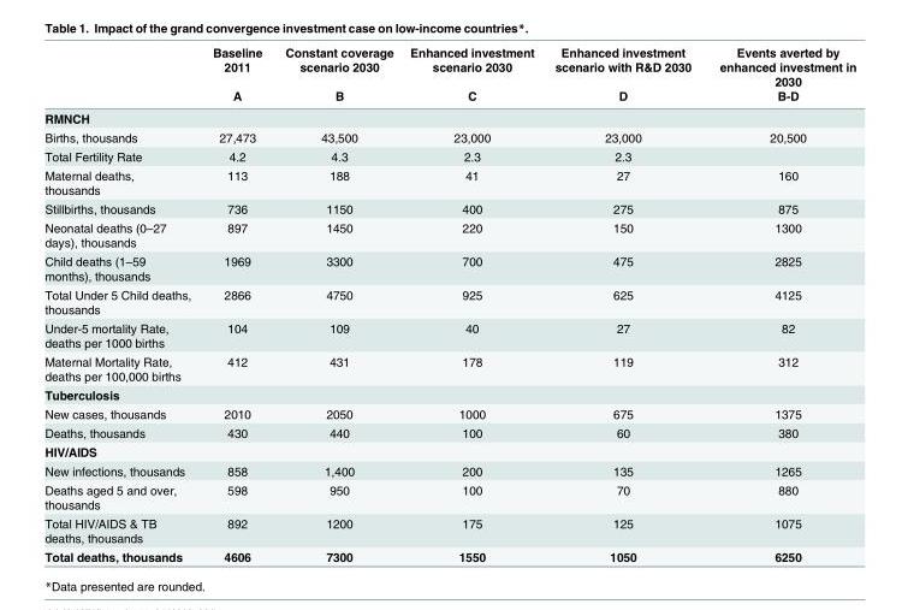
<table><thead><tr><td rowspan="2"></td><td rowspan="2">Baseline 2011 A</td><td rowspan="2">Constant coverage scenario 2030 B</td><td rowspan="2">Enhanced investment scenario 2030 C</td><td rowspan="2">Enhanced investment scenario with R&amp;D 2030 D</td><td rowspan="2">Events averted by enhanced investment in 2030 B-D</td></tr><tr></tr></thead><tbody><tr><td colspan="6">RMNCH</td></tr><tr><td>Births, thousands</td><td>27,473</td><td>43,500</td><td>23,000</td><td>23,000</td><td>20,500</td></tr><tr><td>Total Fertility Rate</td><td>4.2</td><td>4.3</td><td>2.3</td><td>2.3</td><td></td></tr><tr><td>Maternal deaths, thousands</td><td>113</td><td>188</td><td>41</td><td>27</td><td>160</td></tr><tr><td>Stillbirths, thousands</td><td>736</td><td>1150</td><td>400</td><td>275</td><td>875</td></tr><tr><td>Neonatal deaths (0–27 days), thousands</td><td>897</td><td>1450</td><td>220</td><td>150</td><td>1300</td></tr><tr><td>Child deaths (1–59 months), thousands</td><td>1969</td><td>3300</td><td>700</td><td>475</td><td>2825</td></tr><tr><td>Total Under 5 Child deaths, thousands</td><td>2866</td><td>4750</td><td>925</td><td>625</td><td>4125</td></tr><tr><td>Under-5 mortality Rate, deaths per 1000 births</td><td>104</td><td>109</td><td>40</td><td>27</td><td>82</td></tr><tr><td>Maternal Mortality Rate, deaths per 100,000 births</td><td>412</td><td>431</td><td>178</td><td>119</td><td>312</td></tr><tr><td colspan="6">Tuberculosis</td></tr><tr><td>New cases, thousands</td><td>2010</td><td>2050</td><td>1000</td><td>675</td><td>1375</td></tr><tr><td>Deaths, thousands</td><td>430</td><td>440</td><td>100</td><td>60</td><td>380</td></tr><tr><td colspan="6">HIV/AIDS</td></tr><tr><td>New infections, thousands</td><td>858</td><td>1,400</td><td>200</td><td>135</td><td>1265</td></tr><tr><td>Deaths aged 5 and over, thousands</td><td>598</td><td>950</td><td>100</td><td>70</td><td>880</td></tr><tr><td>Total HIV/AIDS &amp; TB deaths, thousands</td><td>892</td><td>1200</td><td>175</td><td>125</td><td>1075</td></tr><tr><td>Total deaths, thousands</td><td>4606</td><td>7300</td><td>1550</td><td>1050</td><td>6250</td></tr></tbody></table>